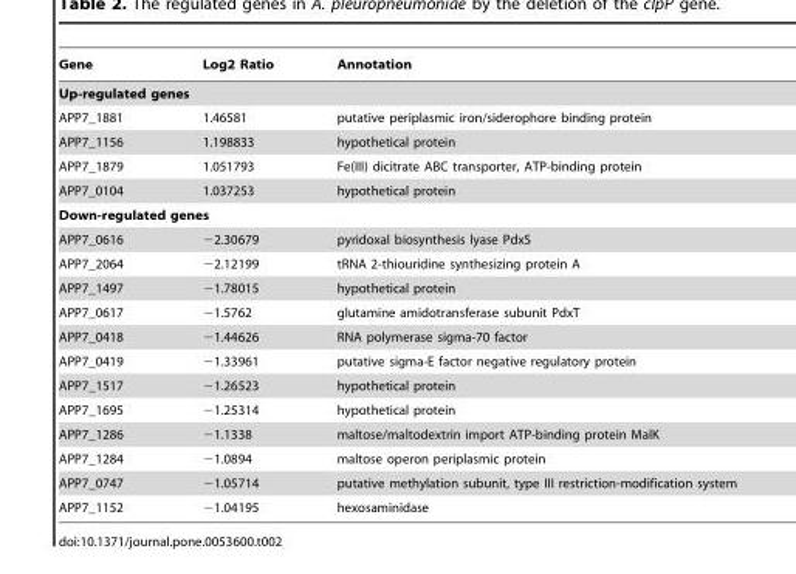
<table><thead><tr><td>Gene</td><td>Log2 Ratio</td><td>Annotation</td></tr></thead><tbody><tr><td colspan="3">Up-regulated genes</td></tr><tr><td>APP7_1881</td><td>1.46581</td><td>putative periplasmic iron/siderophore binding protein</td></tr><tr><td>APP7_1156</td><td>1.198833</td><td>hypothetical protein</td></tr><tr><td>APP7_1879</td><td>1.051793</td><td>Fe(III) dicitrate ABC transporter, ATP-binding protein</td></tr><tr><td>APP7_0104</td><td>1.037253</td><td>hypothetical protein</td></tr><tr><td colspan="3">Down-regulated genes</td></tr><tr><td>APP7_0616</td><td>−2.30679</td><td>pyridoxal biosynthesis lyase PdxS</td></tr><tr><td>APP7_2064</td><td>−2.12199</td><td>tRNA 2-thiouridine synthesizing protein A</td></tr><tr><td>APP7_1497</td><td>−1.78015</td><td>hypothetical protein</td></tr><tr><td>APP7_0617</td><td>−1.5762</td><td>glutamine amidotransferase subunit PdxT</td></tr><tr><td>APP7_0418</td><td>−1.44626</td><td>RNA polymerase sigma-70 factor</td></tr><tr><td>APP7_0419</td><td>−1.33961</td><td>putative sigma-E factor negative regulatory protein</td></tr><tr><td>APP7_1517</td><td>−1.26523</td><td>hypothetical protein</td></tr><tr><td>APP7_1695</td><td>−1.25314</td><td>hypothetical protein</td></tr><tr><td>APP7_1286</td><td>−1.1338</td><td>maltose/maltodextrin import ATP-binding protein MalK</td></tr><tr><td>APP7_1284</td><td>−1.0894</td><td>maltose operon periplasmic protein</td></tr><tr><td>APP7_0747</td><td>−1.05714</td><td>putative methylation subunit, type III restriction-modification system</td></tr><tr><td>APP7_1152</td><td>−1.04195</td><td>hexosaminidase</td></tr></tbody></table>